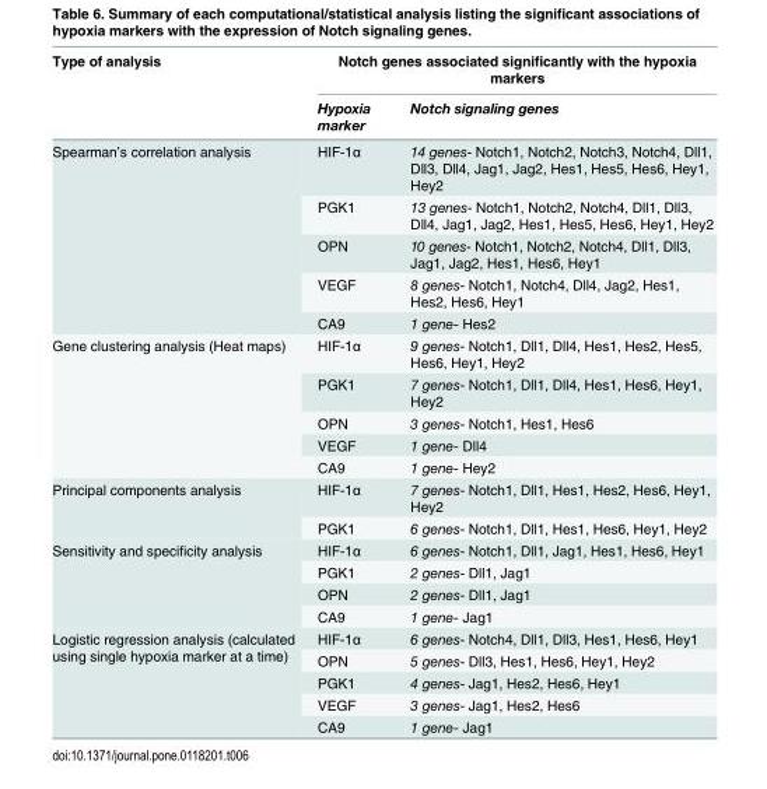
<table><thead><tr><td rowspan="2">Type of analysis</td><td colspan="2">Notch genes associated significantly with the hypoxia markers</td></tr><tr><td>Hypoxia marker</td><td>Notch signaling genes</td></tr></thead><tbody><tr><td rowspan="5">Spearman’s correlation analysis</td><td>HIF-1α</td><td>14 genes- Notch1, Notch2, Notch3, Notch4, Dll1, Dll3, Dll4, Jag1, Jag2, Hes1, Hes5, Hes6, Hey1, Hey2</td></tr><tr><td>PGK1</td><td>13 genes- Notch1, Notch2, Notch4, Dll1, Dll3, Dll4, Jag1, Jag2, Hes1, Hes5, Hes6, Hey1, Hey2</td></tr><tr><td>OPN</td><td>10 genes- Notch1, Notch2, Notch4, Dll1, Dll3, Jag1, Jag2, Hes1, Hes6, Hey1</td></tr><tr><td>VEGF</td><td>8 genes- Notch1, Notch4, Dll4, Jag2, Hes1, Hes2, Hes6, Hey1</td></tr><tr><td>CA9</td><td>1 gene- Hes2</td></tr><tr><td rowspan="5">Gene clustering analysis (Heat maps)</td><td>HIF-1α</td><td>9 genes- Notch1, Dll1, Dll4, Hes1, Hes2, Hes5, Hes6, Hey1, Hey2</td></tr><tr><td>PGK1</td><td>7 genes- Notch1, Dll1, Dll4, Hes1, Hes6, Hey1, Hey2</td></tr><tr><td>OPN</td><td>3 genes- Notch1, Hes1, Hes6</td></tr><tr><td>VEGF</td><td>1 gene- Dll4</td></tr><tr><td>CA9</td><td>1 gene- Hey2</td></tr><tr><td rowspan="2">Principal components analysis</td><td>HIF-1α</td><td>7 genes- Notch1, Dll1, Hes1, Hes2, Hes6, Hey1, Hey2</td></tr><tr><td>PGK1</td><td>6 genes- Notch1, Dll1, Hes1, Hes6, Hey1, Hey2</td></tr><tr><td rowspan="4">Sensitivity and specificity analysis</td><td>HIF-1α</td><td>6 genes- Notch1, Dll1, Jag1, Hes1, Hes6, Hey1</td></tr><tr><td>PGK1</td><td>2 genes- Dll1, Jag1</td></tr><tr><td>OPN</td><td>2 genes- Dll1, Jag1</td></tr><tr><td>CA9</td><td>1 gene- Jag1</td></tr><tr><td rowspan="5">Logistic regression analysis (calculated using single hypoxia marker at a time)</td><td>HIF-1α</td><td>6 genes- Notch4, Dll1, Dll3, Hes1, Hes6, Hey1</td></tr><tr><td>OPN</td><td>5 genes- Dll3, Hes1, Hes6, Hey1, Hey2</td></tr><tr><td>PGK1</td><td>4 genes- Jag1, Hes2, Hes6, Hey1</td></tr><tr><td>VEGF</td><td>3 genes- Jag1, Hes2, Hes6</td></tr><tr><td>CA9</td><td>1 gene- Jag1</td></tr></tbody></table>